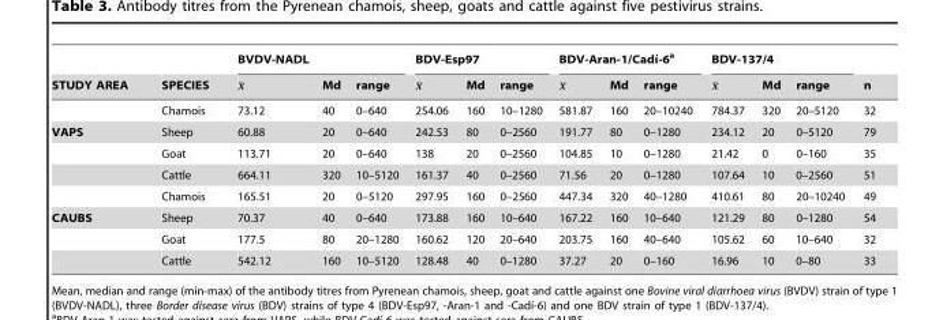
<table><thead><tr><td rowspan="2">STUDY AREA</td><td rowspan="2">SPECIES</td><td colspan="3">BVDV-NADL</td><td colspan="3">BDV-Esp97</td><td colspan="3">BDV-Aran-1/Cadı´-6a</td><td colspan="3">BDV-137/4</td><td rowspan="2">n</td></tr><tr><td>�x</td><td>Md</td><td>range</td><td>�x</td><td>Md</td><td>range</td><td>�x</td><td>Md</td><td>range</td><td>�x</td><td>Md</td><td>range</td></tr></thead><tbody><tr><td></td><td>Chamois</td><td>73.12</td><td>40</td><td>0–640</td><td>254.06</td><td>160</td><td>10–1280</td><td>581.87</td><td>160</td><td>20–10240</td><td>784.37</td><td>320</td><td>20–5120</td><td>32</td></tr><tr><td rowspan="4">VAPS</td><td>Sheep</td><td>60.88</td><td>20</td><td>0–640</td><td>242.53</td><td>80</td><td>0–2560</td><td>191.77</td><td>80</td><td>0–1280</td><td>234.12</td><td>20</td><td>0–5120</td><td>79</td></tr><tr><td>Goat</td><td>113.71</td><td>20</td><td>0–640</td><td>138</td><td>20</td><td>0–2560</td><td>104.85</td><td>10</td><td>0–1280</td><td>21.42</td><td>0</td><td>0–160</td><td>35</td></tr><tr><td>Cattle</td><td>664.11</td><td>320</td><td>10–5120</td><td>161.37</td><td>40</td><td>0–2560</td><td>71.56</td><td>20</td><td>0–1280</td><td>107.64</td><td>10</td><td>0–2560</td><td>51</td></tr><tr><td>Chamois</td><td>165.51</td><td>20</td><td>0–5120</td><td>297.95</td><td>160</td><td>0–2560</td><td>447.34</td><td>320</td><td>40–1280</td><td>410.61</td><td>80</td><td>20–10240</td><td>49</td></tr><tr><td rowspan="3">CAUBS</td><td>Sheep</td><td>70.37</td><td>40</td><td>0–640</td><td>173.88</td><td>160</td><td>10–640</td><td>167.22</td><td>160</td><td>10–640</td><td>121.29</td><td>80</td><td>0–1280</td><td>54</td></tr><tr><td>Goat</td><td>177.5</td><td>80</td><td>20–1280</td><td>160.62</td><td>120</td><td>20–640</td><td>203.75</td><td>160</td><td>40–640</td><td>105.62</td><td>60</td><td>10–640</td><td>32</td></tr><tr><td>Cattle</td><td>542.12</td><td>160</td><td>10–5120</td><td>128.48</td><td>40</td><td>0–1280</td><td>37.27</td><td>20</td><td>0–160</td><td>16.96</td><td>10</td><td>0–80</td><td>33</td></tr></tbody></table>